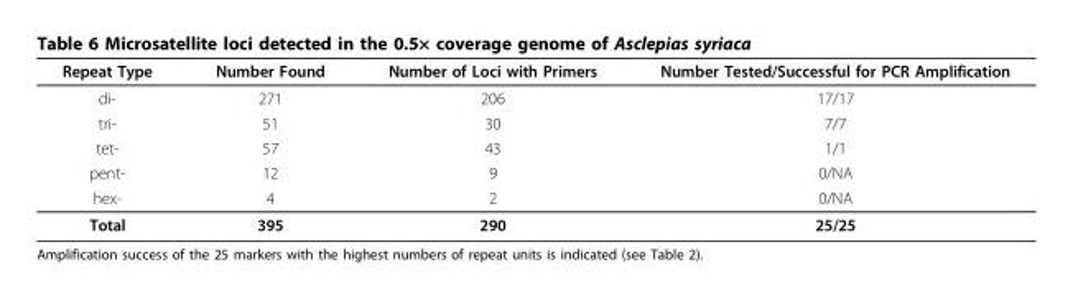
<table><thead><tr><td>Repeat Type</td><td>Number Found</td><td>Number of Loci with Primers</td><td>Number Tested/Successful for PCR Amplification</td></tr></thead><tbody><tr><td>di-</td><td>271</td><td>206</td><td>17/17</td></tr><tr><td>tri-</td><td>51</td><td>30</td><td>7/7</td></tr><tr><td>tet-</td><td>57</td><td>43</td><td>1/1</td></tr><tr><td>pent-</td><td>12</td><td>9</td><td>0/NA</td></tr><tr><td>hex-</td><td>4</td><td>2</td><td>0/NA</td></tr><tr><td>Total</td><td>395</td><td>290</td><td>25/25</td></tr></tbody></table>